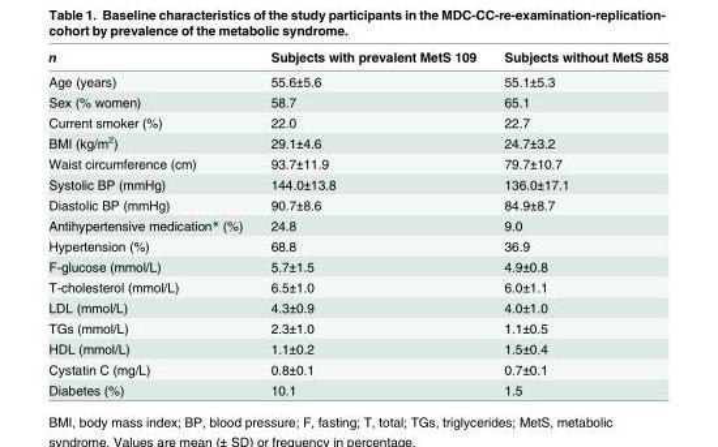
<table><thead><tr><td>n</td><td>Subjects with prevalent MetS 109</td><td>Subjects without MetS 858</td></tr></thead><tbody><tr><td>Age (years)</td><td>55.6±5.6</td><td>55.1±5.3</td></tr><tr><td>Sex (% women)</td><td>58.7</td><td>65.1</td></tr><tr><td>Current smoker (%)</td><td>22.0</td><td>22.7</td></tr><tr><td>BMI (kg/m<sup>2</sup>)</td><td>29.1±4.6</td><td>24.7±3.2</td></tr><tr><td>Waist circumference (cm)</td><td>93.7±11.9</td><td>79.7±10.7</td></tr><tr><td>Systolic BP (mmHg)</td><td>144.0±13.8</td><td>136.0±17.1</td></tr><tr><td>Diastolic BP (mmHg)</td><td>90.7±8.6</td><td>84.9±8.7</td></tr><tr><td>Antihypertensive medication* (%)</td><td>24.8</td><td>9.0</td></tr><tr><td>Hypertension (%)</td><td>68.8</td><td>36.9</td></tr><tr><td>F-glucose (mmol/L)</td><td>5.7±1.5</td><td>4.9±0.8</td></tr><tr><td>T-cholesterol (mmol/L)</td><td>6.5±1.0</td><td>6.0±1.1</td></tr><tr><td>LDL (mmol/L)</td><td>4.3±0.9</td><td>4.0±1.0</td></tr><tr><td>TGs (mmol/L)</td><td>2.3±1.0</td><td>1.1±0.5</td></tr><tr><td>HDL (mmol/L)</td><td>1.1±0.2</td><td>1.5±0.4</td></tr><tr><td>Cystatin C (mg/L)</td><td>0.8±0.1</td><td>0.7±0.1</td></tr><tr><td>Diabetes (%)</td><td>10.1</td><td>1.5</td></tr></tbody></table>